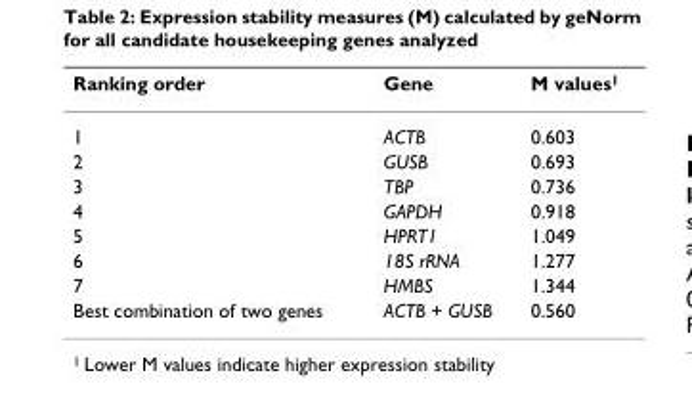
<table><thead><tr><td>Ranking order</td><td>Gene</td><td>M values<sup>1</sup></td></tr></thead><tbody><tr><td>1</td><td>ACTB</td><td>0.603</td></tr><tr><td>2</td><td>GUSB</td><td>0.693</td></tr><tr><td>3</td><td>TBP</td><td>0.736</td></tr><tr><td>4</td><td>GAPDH</td><td>0.918</td></tr><tr><td>5</td><td>HPRT1</td><td>1.049</td></tr><tr><td>6</td><td>18S rRNA</td><td>1.277</td></tr><tr><td>7</td><td>HMBS</td><td>1.344</td></tr><tr><td>Best combination of two genes</td><td>ACTB + GUSB</td><td>0.560</td></tr></tbody></table>